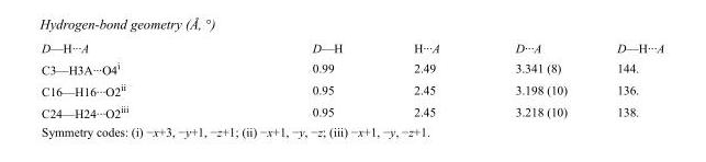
<table><tbody><tr><td>D—H···A</td><td>D—H</td><td>H···A</td><td>D···A</td><td>D—H···A</td></tr><tr><td>C3—H3A···O4<sup>i</sup></td><td>0.99</td><td>2.49</td><td>3.341 (8)</td><td>144.</td></tr><tr><td>C16—H16···O2<sup>ii</sup></td><td>0.95</td><td>2.45</td><td>3.198 (10)</td><td>136.</td></tr><tr><td>C24—H24···O2<sup>iii</sup></td><td>0.95</td><td>2.45</td><td>3.218 (10)</td><td>138.</td></tr></tbody></table>